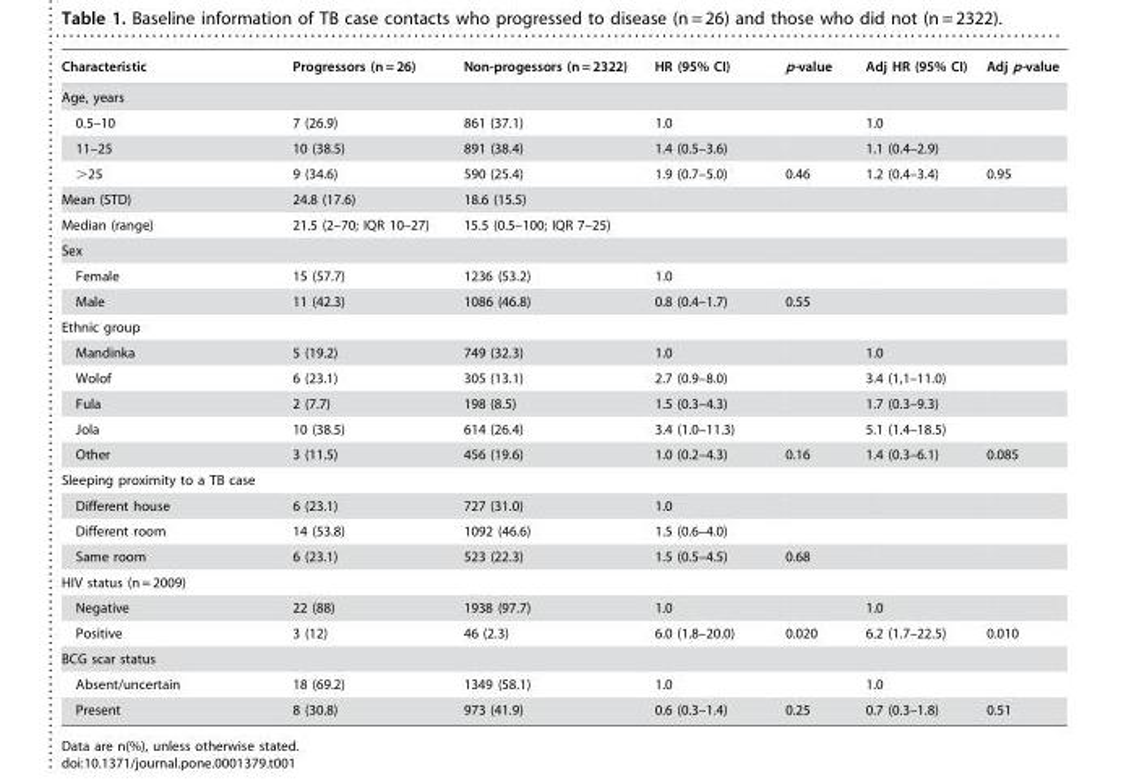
<table><thead><tr><td>Characteristic</td><td>Progressors (n = 26)</td><td>Non-progessors (n = 2322)</td><td>HR (95% CI)</td><td>p-value</td><td>Adj HR (95% CI)</td><td>Adj p-value</td></tr></thead><tbody><tr><td colspan="7">Age, years</td></tr><tr><td>0.5–10</td><td>7 (26.9)</td><td>861 (37.1)</td><td>1.0</td><td></td><td>1.0</td><td></td></tr><tr><td>11–25</td><td>10 (38.5)</td><td>891 (38.4)</td><td>1.4 (0.5–3.6)</td><td></td><td>1.1 (0.4–2.9)</td><td></td></tr><tr><td>&gt;25</td><td>9 (34.6)</td><td>590 (25.4)</td><td>1.9 (0.7–5.0)</td><td>0.46</td><td>1.2 (0.4–3.4)</td><td>0.95</td></tr><tr><td>Mean (STD)</td><td>24.8 (17.6)</td><td>18.6 (15.5)</td><td></td><td></td><td></td><td></td></tr><tr><td>Median (range)</td><td>21.5 (2–70; IQR 10–27)</td><td>15.5 (0.5–100; IQR 7–25)</td><td></td><td></td><td></td><td></td></tr><tr><td colspan="7">Sex</td></tr><tr><td>Female</td><td>15 (57.7)</td><td>1236 (53.2)</td><td>1.0</td><td></td><td></td><td></td></tr><tr><td>Male</td><td>11 (42.3)</td><td>1086 (46.8)</td><td>0.8 (0.4–1.7)</td><td>0.55</td><td></td><td></td></tr><tr><td colspan="7">Ethnic group</td></tr><tr><td>Mandinka</td><td>5 (19.2)</td><td>749 (32.3)</td><td>1.0</td><td></td><td>1.0</td><td></td></tr><tr><td>Wolof</td><td>6 (23.1)</td><td>305 (13.1)</td><td>2.7 (0.9–8.0)</td><td></td><td>3.4 (1,1–11.0)</td><td></td></tr><tr><td>Fula</td><td>2 (7.7)</td><td>198 (8.5)</td><td>1.5 (0.3–4.3)</td><td></td><td>1.7 (0.3–9.3)</td><td></td></tr><tr><td>Jola</td><td>10 (38.5)</td><td>614 (26.4)</td><td>3.4 (1.0–11.3)</td><td></td><td>5.1 (1.4–18.5)</td><td></td></tr><tr><td>Other</td><td>3 (11.5)</td><td>456 (19.6)</td><td>1.0 (0.2–4.3)</td><td>0.16</td><td>1.4 (0.3–6.1)</td><td>0.085</td></tr><tr><td colspan="7">Sleeping proximity to a TB case</td></tr><tr><td>Different house</td><td>6 (23.1)</td><td>727 (31.0)</td><td>1.0</td><td></td><td></td><td></td></tr><tr><td>Different room</td><td>14 (53.8)</td><td>1092 (46.6)</td><td>1.5 (0.6–4.0)</td><td></td><td></td><td></td></tr><tr><td>Same room</td><td>6 (23.1)</td><td>523 (22.3)</td><td>1.5 (0.5–4.5)</td><td>0.68</td><td></td><td></td></tr><tr><td colspan="7">HIV status (n = 2009)</td></tr><tr><td>Negative</td><td>22 (88)</td><td>1938 (97.7)</td><td>1.0</td><td></td><td>1.0</td><td></td></tr><tr><td>Positive</td><td>3 (12)</td><td>46 (2.3)</td><td>6.0 (1.8–20.0)</td><td>0.020</td><td>6.2 (1.7–22.5)</td><td>0.010</td></tr><tr><td colspan="7">BCG scar status</td></tr><tr><td>Absent/uncertain</td><td>18 (69.2)</td><td>1349 (58.1)</td><td>1.0</td><td></td><td>1.0</td><td></td></tr><tr><td>Present</td><td>8 (30.8)</td><td>973 (41.9)</td><td>0.6 (0.3–1.4)</td><td>0.25</td><td>0.7 (0.3–1.8)</td><td>0.51</td></tr></tbody></table>